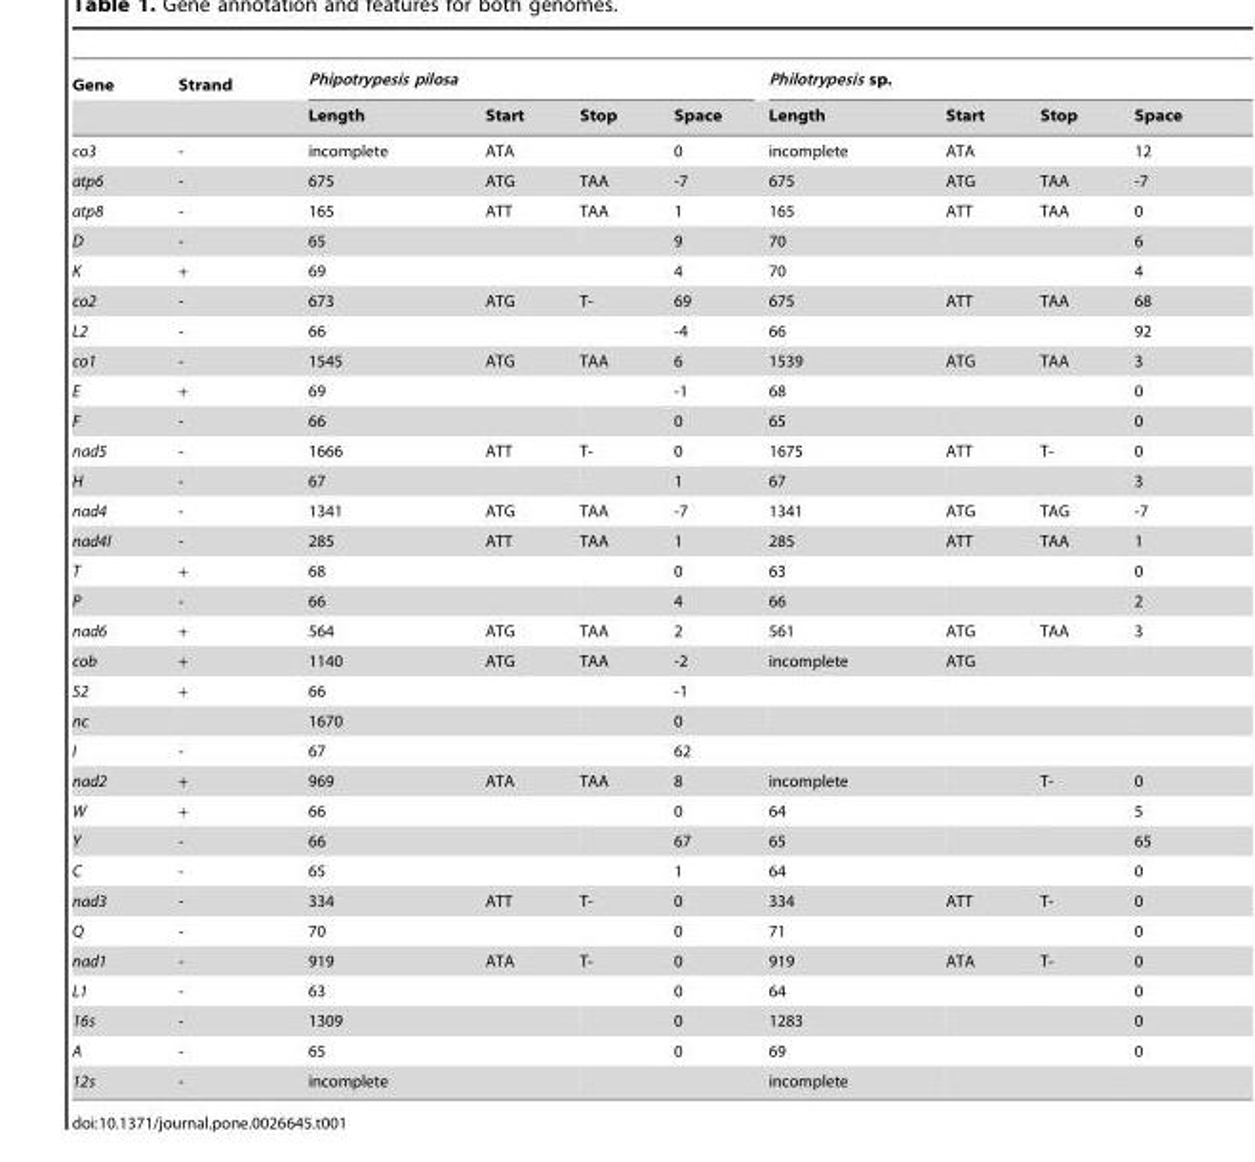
<table><thead><tr><td rowspan="2">Gene</td><td rowspan="2">Strand</td><td colspan="4">Phipotrypesis pilosa</td><td colspan="4">Philotrypesis sp.</td></tr><tr><td>Length</td><td>Start</td><td>Stop</td><td>Space</td><td>Length</td><td>Start</td><td>Stop</td><td>Space</td></tr></thead><tbody><tr><td>co3</td><td>-</td><td>incomplete</td><td>ATA</td><td></td><td>0</td><td>incomplete</td><td>ATA</td><td></td><td>12</td></tr><tr><td>atp6</td><td>-</td><td>675</td><td>ATG</td><td>TAA</td><td>-7</td><td>675</td><td>ATG</td><td>TAA</td><td>-7</td></tr><tr><td>atp8</td><td>-</td><td>165</td><td>ATT</td><td>TAA</td><td>1</td><td>165</td><td>ATT</td><td>TAA</td><td>0</td></tr><tr><td>D</td><td>-</td><td>65</td><td></td><td></td><td>9</td><td>70</td><td></td><td></td><td>6</td></tr><tr><td>K</td><td>+</td><td>69</td><td></td><td></td><td>4</td><td>70</td><td></td><td></td><td>4</td></tr><tr><td>co2</td><td>-</td><td>673</td><td>ATG</td><td>T-</td><td>69</td><td>675</td><td>ATT</td><td>TAA</td><td>68</td></tr><tr><td>L2</td><td>-</td><td>66</td><td></td><td></td><td>-4</td><td>66</td><td></td><td></td><td>92</td></tr><tr><td>co1</td><td>-</td><td>1545</td><td>ATG</td><td>TAA</td><td>6</td><td>1539</td><td>ATG</td><td>TAA</td><td>3</td></tr><tr><td>E</td><td>+</td><td>69</td><td></td><td></td><td>-1</td><td>68</td><td></td><td></td><td>0</td></tr><tr><td>F</td><td>-</td><td>66</td><td></td><td></td><td>0</td><td>65</td><td></td><td></td><td>0</td></tr><tr><td>nad5</td><td>-</td><td>1666</td><td>ATT</td><td>T-</td><td>0</td><td>1675</td><td>ATT</td><td>T-</td><td>0</td></tr><tr><td>H</td><td>-</td><td>67</td><td></td><td></td><td>1</td><td>67</td><td></td><td></td><td>3</td></tr><tr><td>nad4</td><td>-</td><td>1341</td><td>ATG</td><td>TAA</td><td>-7</td><td>1341</td><td>ATG</td><td>TAG</td><td>-7</td></tr><tr><td>nad4l</td><td>-</td><td>285</td><td>ATT</td><td>TAA</td><td>1</td><td>285</td><td>ATT</td><td>TAA</td><td>1</td></tr><tr><td>T</td><td>+</td><td>68</td><td></td><td></td><td>0</td><td>63</td><td></td><td></td><td>0</td></tr><tr><td>P</td><td>-</td><td>66</td><td></td><td></td><td>4</td><td>66</td><td></td><td></td><td>2</td></tr><tr><td>nad6</td><td>+</td><td>564</td><td>ATG</td><td>TAA</td><td>2</td><td>561</td><td>ATG</td><td>TAA</td><td>3</td></tr><tr><td>cob</td><td>+</td><td>1140</td><td>ATG</td><td>TAA</td><td>-2</td><td>incomplete</td><td>ATG</td><td></td><td></td></tr><tr><td>S2</td><td>+</td><td>66</td><td></td><td></td><td>-1</td><td></td><td></td><td></td><td></td></tr><tr><td>nc</td><td></td><td>1670</td><td></td><td></td><td>0</td><td></td><td></td><td></td><td></td></tr><tr><td>I</td><td>-</td><td>67</td><td></td><td></td><td>62</td><td></td><td></td><td></td><td></td></tr><tr><td>nad2</td><td>+</td><td>969</td><td>ATA</td><td>TAA</td><td>8</td><td>incomplete</td><td></td><td>T-</td><td>0</td></tr><tr><td>W</td><td>+</td><td>66</td><td></td><td></td><td>0</td><td>64</td><td></td><td></td><td>5</td></tr><tr><td>Y</td><td>-</td><td>66</td><td></td><td></td><td>67</td><td>65</td><td></td><td></td><td>65</td></tr><tr><td>C</td><td>-</td><td>65</td><td></td><td></td><td>1</td><td>64</td><td></td><td></td><td>0</td></tr><tr><td>nad3</td><td>-</td><td>334</td><td>ATT</td><td>T-</td><td>0</td><td>334</td><td>ATT</td><td>T-</td><td>0</td></tr><tr><td>Q</td><td>-</td><td>70</td><td></td><td></td><td>0</td><td>71</td><td></td><td></td><td>0</td></tr><tr><td>nad1</td><td>-</td><td>919</td><td>ATA</td><td>T-</td><td>0</td><td>919</td><td>ATA</td><td>T-</td><td>0</td></tr><tr><td>L1</td><td>-</td><td>63</td><td></td><td></td><td>0</td><td>64</td><td></td><td></td><td>0</td></tr><tr><td>16s</td><td>-</td><td>1309</td><td></td><td></td><td>0</td><td>1283</td><td></td><td></td><td>0</td></tr><tr><td>A</td><td>-</td><td>65</td><td></td><td></td><td>0</td><td>69</td><td></td><td></td><td>0</td></tr><tr><td>12s</td><td>-</td><td>incomplete</td><td></td><td></td><td></td><td>incomplete</td><td></td><td></td><td></td></tr></tbody></table>